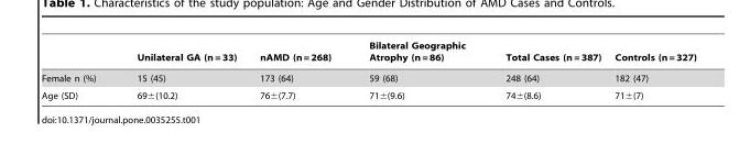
<table><thead><tr><td></td><td>Unilateral GA (n = 33)</td><td>nAMD (n = 268)</td><td>Bilateral Geographic Atrophy (n = 86)</td><td>Total Cases (n = 387)</td><td>Controls (n = 327)</td></tr></thead><tbody><tr><td>Female n (%)</td><td>15 (45)</td><td>173 (64)</td><td>59 (68)</td><td>248 (64)</td><td>182 (47)</td></tr><tr><td>Age (SD)</td><td>69±(10.2)</td><td>76±(7.7)</td><td>71±(9.6)</td><td>74±(8.6)</td><td>71±(7)</td></tr></tbody></table>